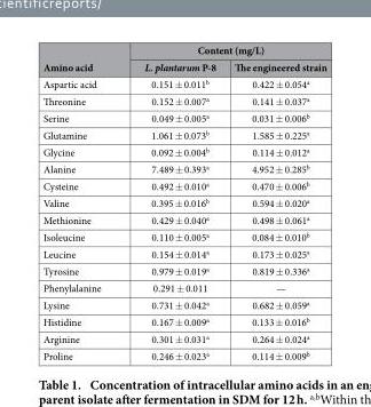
<table><thead><tr><td rowspan="2">Amino acid</td><td colspan="2">Content (mg/L)</td></tr><tr><td>L. plantarum P-8</td><td>The engineered strain</td></tr></thead><tbody><tr><td>Aspartic acid</td><td>0.151 ± 0.011<sup>b</sup></td><td>0.422 ± 0.054<sup>a</sup></td></tr><tr><td>Threonine</td><td>0.152 ± 0.007<sup>a</sup></td><td>0.141 ± 0.037<sup>a</sup></td></tr><tr><td>Serine</td><td>0.049 ± 0.005<sup>a</sup></td><td>0.031 ± 0.006<sup>b</sup></td></tr><tr><td>Glutamine</td><td>1.061 ± 0.073<sup>b</sup></td><td>1.585 ± 0.225<sup>a</sup></td></tr><tr><td>Glycine</td><td>0.092 ± 0.004<sup>b</sup></td><td>0.114 ± 0.012<sup>a</sup></td></tr><tr><td>Alanine</td><td>7.489 ± 0.393<sup>a</sup></td><td>4.952 ± 0.285<sup>b</sup></td></tr><tr><td>Cysteine</td><td>0.492 ± 0.010<sup>a</sup></td><td>0.470 ± 0.006<sup>b</sup></td></tr><tr><td>Valine</td><td>0.395 ± 0.016<sup>b</sup></td><td>0.594 ± 0.020<sup>a</sup></td></tr><tr><td>Methionine</td><td>0.429 ± 0.040<sup>a</sup></td><td>0.498 ± 0.061<sup>a</sup></td></tr><tr><td>Isoleucine</td><td>0.110 ± 0.005<sup>a</sup></td><td>0.084 ± 0.010<sup>b</sup></td></tr><tr><td>Leucine</td><td>0.154 ± 0.014<sup>a</sup></td><td>0.173 ± 0.025<sup>a</sup></td></tr><tr><td>Tyrosine</td><td>0.979 ± 0.019<sup>a</sup></td><td>0.819 ± 0.336<sup>a</sup></td></tr><tr><td>Phenylalanine</td><td>0.291 ± 0.011</td><td>—</td></tr><tr><td>Lysine</td><td>0.731 ± 0.042<sup>a</sup></td><td>0.682 ± 0.059<sup>a</sup></td></tr><tr><td>Histidine</td><td>0.167 ± 0.009<sup>a</sup></td><td>0.133 ± 0.016<sup>b</sup></td></tr><tr><td>Arginine</td><td>0.301 ± 0.031<sup>a</sup></td><td>0.264 ± 0.024<sup>a</sup></td></tr><tr><td>Proline</td><td>0.246 ± 0.023<sup>a</sup></td><td>0.114 ± 0.009<sup>b</sup></td></tr></tbody></table>